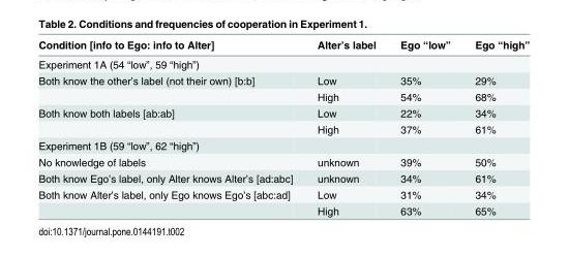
<table><thead><tr><td>Condition [info to Ego: info to Alter]</td><td>Alter’s label</td><td>Ego “low”</td><td>Ego “high”</td></tr></thead><tbody><tr><td colspan="4">Experiment 1A (54 “low”, 59 “high”)</td></tr><tr><td rowspan="2">Both know the other’s label (not their own) [b:b]</td><td>Low</td><td>35%</td><td>29%</td></tr><tr><td>High</td><td>54%</td><td>68%</td></tr><tr><td rowspan="2">Both know both labels [ab:ab]</td><td>Low</td><td>22%</td><td>34%</td></tr><tr><td>High</td><td>37%</td><td>61%</td></tr><tr><td colspan="4">Experiment 1B (59 “low”, 62 “high”)</td></tr><tr><td>No knowledge of labels</td><td>unknown</td><td>39%</td><td>50%</td></tr><tr><td>Both know Ego’s label, only Alter knows Alter’s [ad:abc]</td><td>unknown</td><td>34%</td><td>61%</td></tr><tr><td rowspan="2">Both know Alter’s label, only Ego knows Ego’s [abc:ad]</td><td>Low</td><td>31%</td><td>34%</td></tr><tr><td>High</td><td>63%</td><td>65%</td></tr></tbody></table>